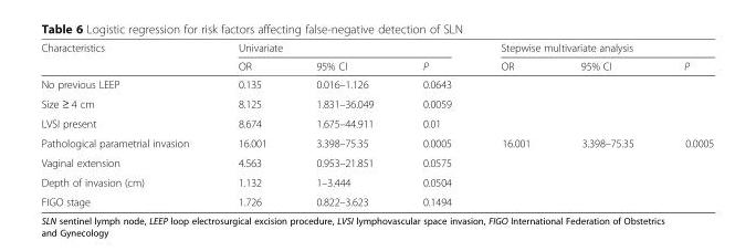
<table><thead><tr><td rowspan="2">Characteristics</td><td colspan="3">Univariate</td><td colspan="3">Stepwise multivariate analysis</td></tr><tr><td>OR</td><td>95% CI</td><td>P</td><td>OR</td><td>95% CI</td><td>P</td></tr></thead><tbody><tr><td>No previous LEEP</td><td>0.135</td><td>0.016–1.126</td><td>0.0643</td><td></td><td></td><td rowspan="3"></td></tr><tr><td>Size ≥ 4 cm</td><td>8.125</td><td>1.831–36.049</td><td>0.0059</td><td></td><td></td></tr><tr><td>LVSI present</td><td>8.674</td><td>1.675–44.911</td><td>0.01</td><td></td><td></td></tr><tr><td>Pathological parametrial invasion</td><td>16.001</td><td>3.398–75.35</td><td>0.0005</td><td>16.001</td><td>3.398–75.35</td><td>0.0005</td></tr><tr><td>Vaginal extension</td><td>4.563</td><td>0.953–21.851</td><td>0.0575</td><td></td><td></td><td rowspan="3"></td></tr><tr><td>Depth of invasion (cm)</td><td>1.132</td><td>1–3.444</td><td>0.0504</td><td></td><td></td></tr><tr><td>FIGO stage</td><td>1.726</td><td>0.822–3.623</td><td>0.1494</td><td></td><td></td></tr></tbody></table>